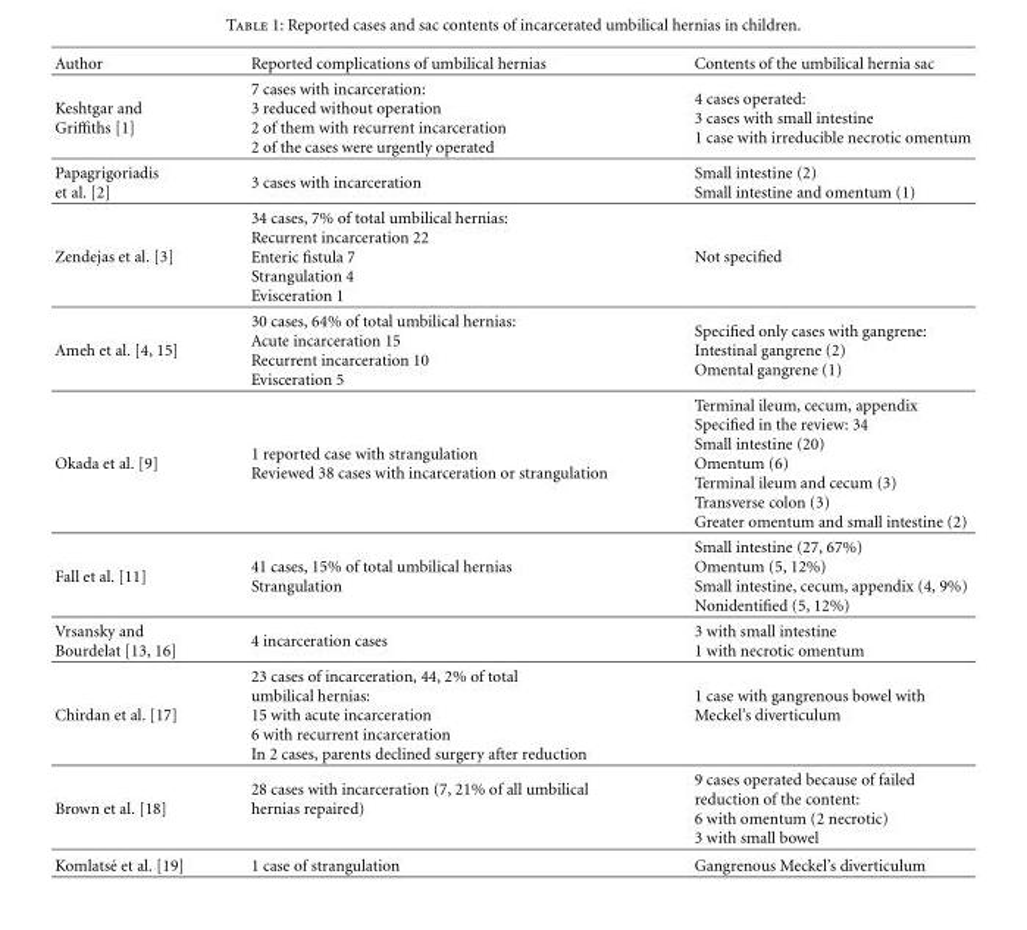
<table><thead><tr><td>Author</td><td>Reported complications of umbilical hernias</td><td>Contents of the umbilical hernia sac</td></tr></thead><tbody><tr><td>Keshtgar and Griffiths [1]</td><td>7 cases with incarceration: 3 reduced without operation 2 of them with recurrent incarceration 2 of the cases were urgently operated</td><td>4 cases operated: 3 cases with small intestine 1 case with irreducible necrotic omentum</td></tr><tr><td>Papagrigoriadis et al. [2]</td><td>3 cases with incarceration</td><td>Small intestine (2) Small intestine and omentum (1)</td></tr><tr><td>Zendejas et al. [3]</td><td>34 cases, 7% of total umbilical hernias: Recurrent incarceration 22 Enteric fistula 7 Strangulation 4 Evisceration 1</td><td>Not specified</td></tr><tr><td>Ameh et al. [4, 15]</td><td>30 cases, 64% of total umbilical hernias: Acute incarceration 15 Recurrent incarceration 10 Evisceration 5</td><td>Specified only cases with gangrene: Intestinal gangrene (2) Omental gangrene (1)</td></tr><tr><td>Okada et al. [9]</td><td>1 reported case with strangulation Reviewed 38 cases with incarceration or strangulation</td><td>Terminal ileum, cecum, appendix Specified in the review: 34 Small intestine (20) Omentum (6) Terminal ileum and cecum (3) Transverse colon (3) Greater omentum and small intestine (2)</td></tr><tr><td>Fall et al. [11]</td><td>41 cases, 15% of total umbilical hernias Strangulation</td><td>Small intestine (27, 67%) Omentum (5, 12%) Small intestine, cecum, appendix (4, 9%) Nonidentified (5, 12%)</td></tr><tr><td>Vrsansky and Bourdelat [13, 16]</td><td>4 incarceration cases</td><td>3 with small intestine 1 with necrotic omentum</td></tr><tr><td>Chirdan et al. [17]</td><td>23 cases of incarceration, 44, 2% of total umbilical hernias: 15 with acute incarceration 6 with recurrent incarceration In 2 cases, parents declined surgery after reduction</td><td>1 case with gangrenous bowel with Meckel’s diverticulum</td></tr><tr><td>Brown et al. [18]</td><td>28 cases with incarceration (7, 21% of all umbilical hernias repaired)</td><td>9 cases operated because of failed reduction of the content: 6 with omentum (2 necrotic) 3 with small bowel</td></tr><tr><td>Komlats´e et al. [19]</td><td>1 case of strangulation</td><td>Gangrenous Meckel’s diverticulum</td></tr></tbody></table>